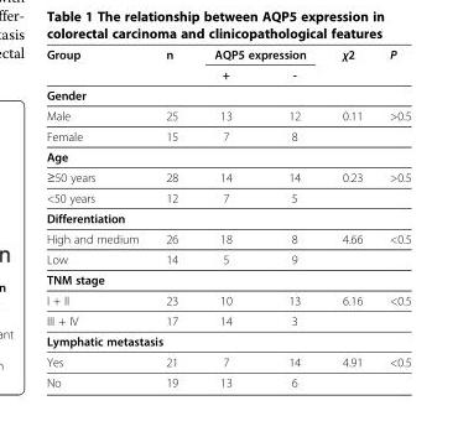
<table><thead><tr><td rowspan="2">Group</td><td rowspan="2">n</td><td colspan="2">AQP5 expression</td><td rowspan="2">χ2</td><td rowspan="2">P</td></tr><tr><td>+</td><td>-</td></tr></thead><tbody><tr><td colspan="6">Gender</td></tr><tr><td>Male</td><td>25</td><td>13</td><td>12</td><td>0.11</td><td>&gt;0.5</td></tr><tr><td>Female</td><td>15</td><td>7</td><td>8</td><td></td><td></td></tr><tr><td colspan="6">Age</td></tr><tr><td>≥50 years</td><td>28</td><td>14</td><td>14</td><td>0.23</td><td>&gt;0.5</td></tr><tr><td>&lt;50 years</td><td>12</td><td>7</td><td>5</td><td></td><td></td></tr><tr><td colspan="6">Differentiation</td></tr><tr><td>High and medium</td><td>26</td><td>18</td><td>8</td><td>4.66</td><td>&lt;0.5</td></tr><tr><td>Low</td><td>14</td><td>5</td><td>9</td><td></td><td></td></tr><tr><td colspan="6">TNM stage</td></tr><tr><td>I + II</td><td>23</td><td>10</td><td>13</td><td>6.16</td><td>&lt;0.5</td></tr><tr><td>III + IV</td><td>17</td><td>14</td><td>3</td><td></td><td></td></tr><tr><td colspan="6">Lymphatic metastasis</td></tr><tr><td>Yes</td><td>21</td><td>7</td><td>14</td><td>4.91</td><td>&lt;0.5</td></tr><tr><td>No</td><td>19</td><td>13</td><td>6</td><td></td><td></td></tr></tbody></table>